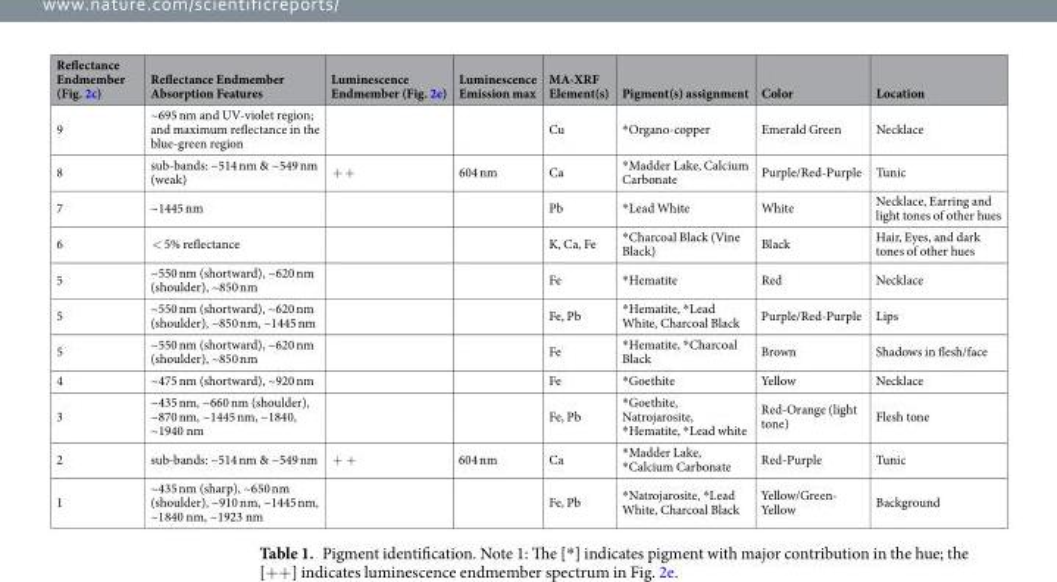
<table><thead><tr><td>Reflectance Endmember (Fig. 2c)</td><td>Reflectance Endmember Absorption Features</td><td>Luminescence Endmember (Fig. 2e)</td><td>Luminescence Emission max</td><td>MA-XRF Element(s)</td><td>Pigment(s) assignment</td><td>Color</td><td>Location</td></tr></thead><tbody><tr><td>9</td><td>~695 nm and UV-violet region; and maximum reflectance in the blue-green region</td><td></td><td></td><td>Cu</td><td>*Organo-copper</td><td>Emerald Green</td><td>Necklace</td></tr><tr><td>8</td><td>sub-bands: ~514 nm &amp; ~549 nm (weak)</td><td>+ +</td><td>604 nm</td><td>Ca</td><td>*Madder Lake, Calcium Carbonate</td><td>Purple/Red-Purple</td><td>Tunic</td></tr><tr><td>7</td><td>~1445 nm</td><td></td><td></td><td>Pb</td><td>*Lead White</td><td>White</td><td>Necklace, Earring and light tones of other hues</td></tr><tr><td>6</td><td>&lt; 5% reflectance</td><td></td><td></td><td>K, Ca, Fe</td><td>*Charcoal Black (Vine Black)</td><td>Black</td><td>Hair, Eyes, and dark tones of other hues</td></tr><tr><td>5</td><td>~550 nm (shortward), ~620 nm (shoulder), ~850 nm</td><td></td><td></td><td>Fe</td><td>*Hematite</td><td>Red</td><td>Necklace</td></tr><tr><td>5</td><td>~550 nm (shortward), ~620 nm (shoulder), ~850 nm, ~1445 nm</td><td></td><td></td><td>Fe, Pb</td><td>*Hematite, *Lead White, Charcoal Black</td><td>Purple/Red-Purple</td><td>Lips</td></tr><tr><td>5</td><td>~550 nm (shortward), ~620 nm (shoulder), ~850 nm</td><td></td><td></td><td>Fe</td><td>*Hematite, *Charcoal Black</td><td>Brown</td><td>Shadows in flesh/face</td></tr><tr><td>4</td><td>~475 nm (shortward), ~920 nm</td><td></td><td></td><td>Fe</td><td>*Goethite</td><td>Yellow</td><td>Necklace</td></tr><tr><td>3</td><td>~435 nm, ~660 nm (shoulder), ~870 nm, ~1445 nm, ~1840, ~1940 nm</td><td></td><td></td><td>Fe, Pb</td><td>*Goethite, Natrojarosite, *Hematite, *Lead white</td><td>Red-Orange (light tone)</td><td>Flesh tone</td></tr><tr><td>2</td><td>sub-bands: ~514 nm &amp; ~549 nm</td><td>+ +</td><td>604 nm</td><td>Ca</td><td>*Madder Lake, *Calcium Carbonate</td><td>Red-Purple</td><td>Tunic</td></tr><tr><td>1</td><td>~435 nm (sharp), ~650 nm (shoulder), ~910 nm, ~1445 nm, ~1840 nm, ~1923 nm</td><td></td><td></td><td>Fe, Pb</td><td>*Natrojarosite, *Lead White, Charcoal Black</td><td>Yellow/Green- Yellow</td><td>Background</td></tr></tbody></table>